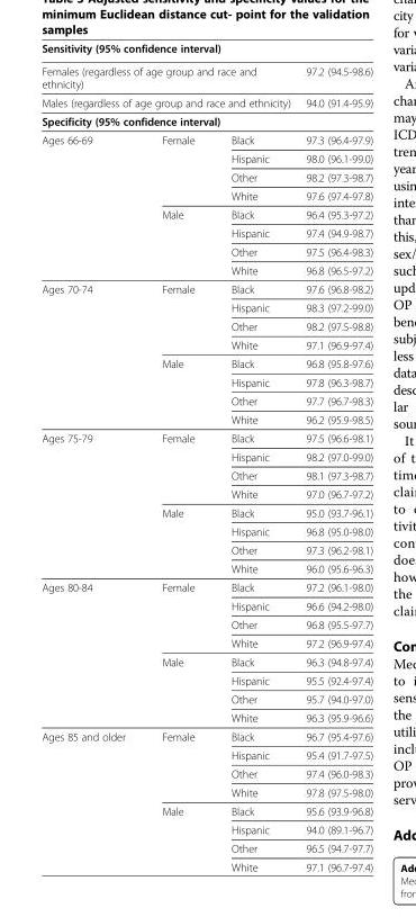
<table><thead><tr><td colspan="4">Sensitivity (95% confidence interval)</td></tr></thead><tbody><tr><td colspan="3">Females (regardless of age group and race and ethnicity)</td><td>97.2 (94.5-98.6)</td></tr><tr><td colspan="3">Males (regardless of age group and race and ethnicity)</td><td>94.0 (91.4-95.9)</td></tr><tr><td colspan="4">Specificity (95% confidence interval)</td></tr><tr><td rowspan="8">Ages 66-69</td><td rowspan="4">Female</td><td>Black</td><td>97.3 (96.4-97.9)</td></tr><tr><td>Hispanic</td><td>98.0 (96.1-99.0)</td></tr><tr><td>Other</td><td>98.2 (97.3-98.7)</td></tr><tr><td>White</td><td>97.6 (97.4-97.8)</td></tr><tr><td rowspan="4">Male</td><td>Black</td><td>96.4 (95.3-97.2)</td></tr><tr><td>Hispanic</td><td>97.4 (94.9-98.7)</td></tr><tr><td>Other</td><td>97.5 (96.4-98.3)</td></tr><tr><td>White</td><td>96.8 (96.5-97.2)</td></tr><tr><td rowspan="8">Ages 70-74</td><td rowspan="4">Female</td><td>Black</td><td>97.6 (96.8-98.2)</td></tr><tr><td>Hispanic</td><td>98.3 (97.2-99.0)</td></tr><tr><td>Other</td><td>98.2 (97.5-98.8)</td></tr><tr><td>White</td><td>97.1 (96.9-97.4)</td></tr><tr><td rowspan="4">Male</td><td>Black</td><td>96.8 (95.8-97.6)</td></tr><tr><td>Hispanic</td><td>97.8 (96.3-98.7)</td></tr><tr><td>Other</td><td>97.7 (96.7-98.3)</td></tr><tr><td>White</td><td>96.2 (95.9-98.5)</td></tr><tr><td rowspan="8">Ages 75-79</td><td rowspan="4">Female</td><td>Black</td><td>97.5 (96.6-98.1)</td></tr><tr><td>Hispanic</td><td>98.2 (97.0-99.0)</td></tr><tr><td>Other</td><td>98.1 (97.3-98.7)</td></tr><tr><td>White</td><td>97.0 (96.7-97.2)</td></tr><tr><td rowspan="4">Male</td><td>Black</td><td>95.0 (93.7-96.1)</td></tr><tr><td>Hispanic</td><td>96.8 (95.0-98.0)</td></tr><tr><td>Other</td><td>97.3 (96.2-98.1)</td></tr><tr><td>White</td><td>96.0 (95.6-96.3)</td></tr><tr><td rowspan="8">Ages 80-84</td><td rowspan="4">Female</td><td>Black</td><td>97.2 (96.1-98.0)</td></tr><tr><td>Hispanic</td><td>96.6 (94.2-98.0)</td></tr><tr><td>Other</td><td>96.8 (95.5-97.7)</td></tr><tr><td>White</td><td>97.2 (96.9-97.4)</td></tr><tr><td rowspan="4">Male</td><td>Black</td><td>96.3 (94.8-97.4)</td></tr><tr><td>Hispanic</td><td>95.5 (92.4-97.4)</td></tr><tr><td>Other</td><td>95.7 (94.0-97.0)</td></tr><tr><td>White</td><td>96.3 (95.9-96.6)</td></tr><tr><td rowspan="8">Ages 85 and older</td><td rowspan="4">Female</td><td>Black</td><td>96.7 (95.4-97.6)</td></tr><tr><td>Hispanic</td><td>95.4 (91.7-97.5)</td></tr><tr><td>Other</td><td>97.4 (96.0-98.3)</td></tr><tr><td>White</td><td>97.8 (97.5-98.0)</td></tr><tr><td rowspan="4">Male</td><td>Black</td><td>95.6 (93.9-96.8)</td></tr><tr><td>Hispanic</td><td>94.0 (89.1-96.7)</td></tr><tr><td>Other</td><td>96.5 (94.7-97.7)</td></tr><tr><td>White</td><td>97.1 (96.7-97.4)</td></tr></tbody></table>